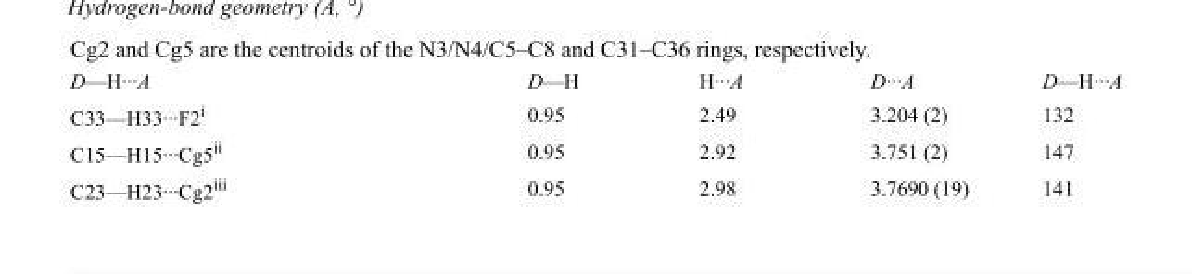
<table><tbody><tr><td>D—H···A</td><td>D—H</td><td>H···A</td><td>D···A</td><td>D—H···A</td></tr><tr><td>C33—H33···F2<sup>i</sup></td><td>0.95</td><td>2.49</td><td>3.204 (2)</td><td>132</td></tr><tr><td>C15—H15···Cg5<sup>ii</sup></td><td>0.95</td><td>2.92</td><td>3.751 (2)</td><td>147</td></tr><tr><td>C23—H23···Cg2<sup>iii</sup></td><td>0.95</td><td>2.98</td><td>3.7690 (19)</td><td>141</td></tr></tbody></table>